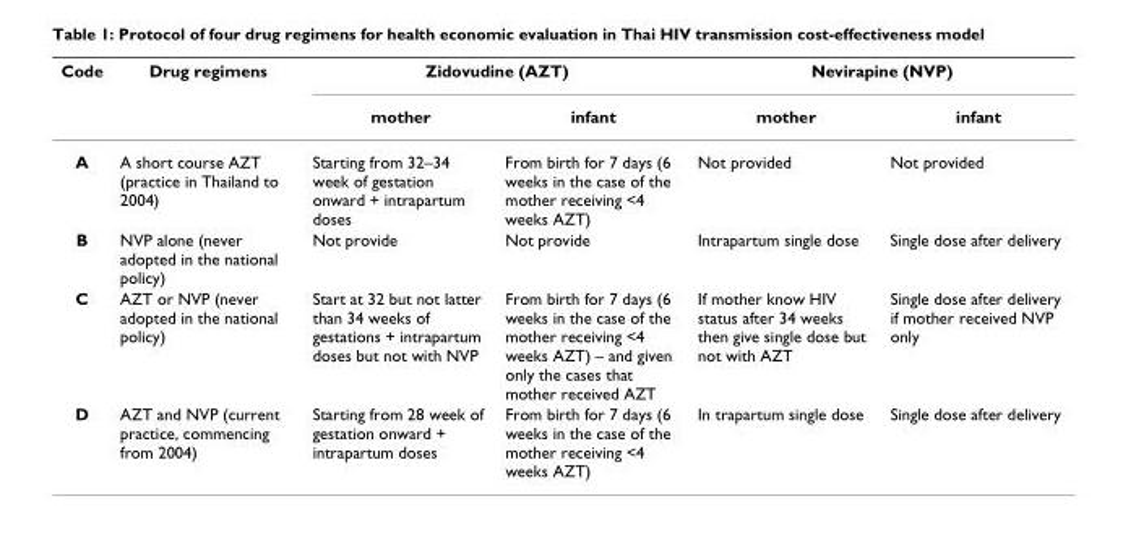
<table><thead><tr><td rowspan="2">Code</td><td rowspan="2">Drug regimens</td><td colspan="2">Zidovudine (AZT)</td><td colspan="2">Nevirapine (NVP)</td></tr><tr><td>mother</td><td>infant</td><td>mother</td><td>infant</td></tr></thead><tbody><tr><td>A</td><td>A short course AZT (practice in Thailand to 2004)</td><td>Starting from 32–34 week of gestation onward + intrapartum doses</td><td>From birth for 7 days (6 weeks in the case of the mother receiving &lt;4 weeks AZT)</td><td>Not provided</td><td>Not provided</td></tr><tr><td>B</td><td>NVP alone (never adopted in the national policy)</td><td>Not provide</td><td>Not provide</td><td>Intrapartum single dose</td><td>Single dose after delivery</td></tr><tr><td>C</td><td>AZT or NVP (never adopted in the national policy)</td><td>Start at 32 but not latter than 34 weeks of gestations + intrapartum doses but not with NVP</td><td>From birth for 7 days (6 weeks in the case of the mother receiving &lt;4 weeks AZT) – and given only the cases that mother received AZT</td><td>If mother know HIV status after 34 weeks then give single dose but not with AZT</td><td>Single dose after delivery if mother received NVP only</td></tr><tr><td>D</td><td>AZT and NVP (current practice, commencing from 2004)</td><td>Starting from 28 week of gestation onward + intrapartum doses</td><td>From birth for 7 days (6 weeks in the case of the mother receiving &lt;4 weeks AZT)</td><td>In trapartum single dose</td><td>Single dose after delivery</td></tr></tbody></table>